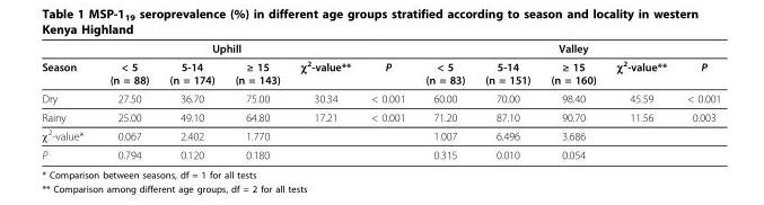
<table><thead><tr><td colspan="6">Uphill</td><td colspan="5">Valley</td></tr><tr><td>Season</td><td>&lt; 5 (n = 88)</td><td>5-14 (n = 174)</td><td>≥ 15 (n = 143)</td><td>χ<sup>2</sup>-value**</td><td>P</td><td>&lt; 5 (n = 83)</td><td>5-14 (n = 151)</td><td>≥ 15 (n = 160)</td><td>χ<sup>2</sup>-value**</td><td>P</td></tr></thead><tbody><tr><td>Dry</td><td>27.50</td><td>36.70</td><td>75.00</td><td>30.34</td><td>&lt; 0.001</td><td>60.00</td><td>70.00</td><td>98.40</td><td>45.59</td><td>&lt; 0.001</td></tr><tr><td>Rainy</td><td>25.00</td><td>49.10</td><td>64.80</td><td>17.21</td><td>&lt; 0.001</td><td>71.20</td><td>87.10</td><td>90.70</td><td>11.56</td><td>0.003</td></tr><tr><td>χ<sup>2</sup>-value*</td><td>0.067</td><td>2.402</td><td>1.770</td><td></td><td></td><td>1.007</td><td>6.496</td><td>3.686</td><td></td><td></td></tr><tr><td>P</td><td>0.794</td><td>0.120</td><td>0.180</td><td></td><td></td><td>0.315</td><td>0.010</td><td>0.054</td><td></td><td></td></tr></tbody></table>